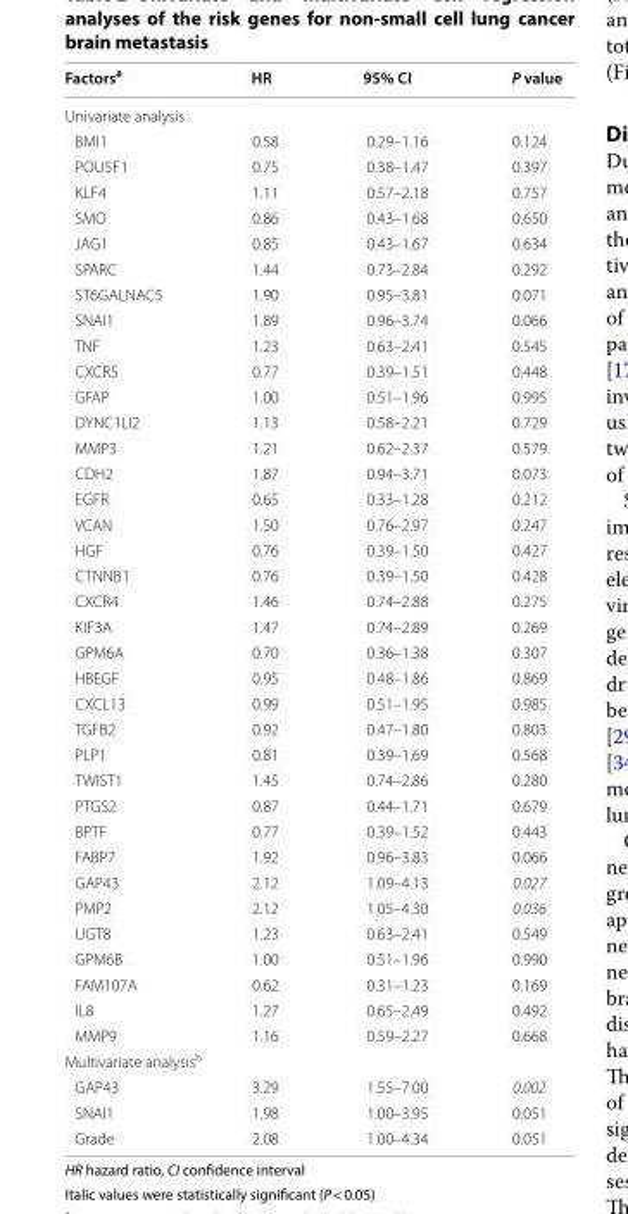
<table><thead><tr><td>Factors<sup>a</sup></td><td>HR</td><td>95% CI</td><td>P value</td></tr></thead><tbody><tr><td colspan="4">Univariate analysis</td></tr><tr><td>BMI1</td><td>0.58</td><td>0.29–1.16</td><td>0.124</td></tr><tr><td>POU5F1</td><td>0.75</td><td>0.38–1.47</td><td>0.397</td></tr><tr><td>KLF4</td><td>1.11</td><td>0.57–2.18</td><td>0.757</td></tr><tr><td>SMO</td><td>0.86</td><td>0.43–1.68</td><td>0.650</td></tr><tr><td>JAG1</td><td>0.85</td><td>0.43–1.67</td><td>0.634</td></tr><tr><td>SPARC</td><td>1.44</td><td>0.73–2.84</td><td>0.292</td></tr><tr><td>ST6GALNAC5</td><td>1.90</td><td>0.95–3.81</td><td>0.071</td></tr><tr><td>SNAI1</td><td>1.89</td><td>0.96–3.74</td><td>0.066</td></tr><tr><td>TNF</td><td>1.23</td><td>0.63–2.41</td><td>0.545</td></tr><tr><td>CXCR5</td><td>0.77</td><td>0.39–1.51</td><td>0.448</td></tr><tr><td>GFAP</td><td>1.00</td><td>0.51–1.96</td><td>0.995</td></tr><tr><td>DYNC1LI2</td><td>1.13</td><td>0.58–2.21</td><td>0.729</td></tr><tr><td>MMP3</td><td>1.21</td><td>0.62–2.37</td><td>0.579</td></tr><tr><td>CDH2</td><td>1.87</td><td>0.94–3.71</td><td>0.073</td></tr><tr><td>EGFR</td><td>0.65</td><td>0.33–1.28</td><td>0.212</td></tr><tr><td>VCAN</td><td>1.50</td><td>0.76–2.97</td><td>0.247</td></tr><tr><td>HGF</td><td>0.76</td><td>0.39–1.50</td><td>0.427</td></tr><tr><td>CTNNB1</td><td>0.76</td><td>0.39–1.50</td><td>0.428</td></tr><tr><td>CXCR4</td><td>1.46</td><td>0.74–2.88</td><td>0.275</td></tr><tr><td>KIF3A</td><td>1.47</td><td>0.74–2.89</td><td>0.269</td></tr><tr><td>GPM6A</td><td>0.70</td><td>0.36–1.38</td><td>0.307</td></tr><tr><td>HBEGF</td><td>0.95</td><td>0.48–1.86</td><td>0.869</td></tr><tr><td>CXCL13</td><td>0.99</td><td>0.51–1.95</td><td>0.985</td></tr><tr><td>TGFB2</td><td>0.92</td><td>0.47–1.80</td><td>0.803</td></tr><tr><td>PLP1</td><td>0.81</td><td>0.39–1.69</td><td>0.568</td></tr><tr><td>TWIST1</td><td>1.45</td><td>0.74–2.86</td><td>0.280</td></tr><tr><td>PTGS2</td><td>0.87</td><td>0.44–1.71</td><td>0.679</td></tr><tr><td>BPTF</td><td>0.77</td><td>0.39–1.52</td><td>0.443</td></tr><tr><td>FABP7</td><td>1.92</td><td>0.96–3.83</td><td>0.066</td></tr><tr><td>GAP43</td><td>2.12</td><td>1.09–4.13</td><td>0.027</td></tr><tr><td>PMP2</td><td>2.12</td><td>1.05–4.30</td><td>0.036</td></tr><tr><td>UGT8</td><td>1.23</td><td>0.63–2.41</td><td>0.549</td></tr><tr><td>GPM6B</td><td>1.00</td><td>0.51–1.96</td><td>0.990</td></tr><tr><td>FAM107A</td><td>0.62</td><td>0.31–1.23</td><td>0.169</td></tr><tr><td>IL8</td><td>1.27</td><td>0.65–2.49</td><td>0.492</td></tr><tr><td>MMP9</td><td>1.16</td><td>0.59–2.27</td><td>0.668</td></tr><tr><td colspan="4">Multivariate analysis<sup>b</sup></td></tr><tr><td>GAP43</td><td>3.29</td><td>1.55–7.00</td><td>0.002</td></tr><tr><td>SNAI1</td><td>1.98</td><td>1.00–3.95</td><td>0.051</td></tr><tr><td>Grade</td><td>2.08</td><td>1.00–4.34</td><td>0.051</td></tr></tbody></table>